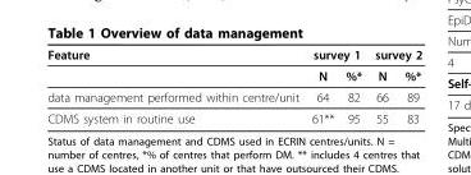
<table><thead><tr><td rowspan="2">Feature</td><td colspan="2">survey 1</td><td colspan="2">survey 2</td></tr><tr><td>N</td><td>%*</td><td>N</td><td>%*</td></tr></thead><tbody><tr><td>data management performed within centre/unit</td><td>64</td><td>82</td><td>66</td><td>89</td></tr><tr><td>CDMS system in routine use</td><td>61**</td><td>95</td><td>55</td><td>83</td></tr></tbody></table>